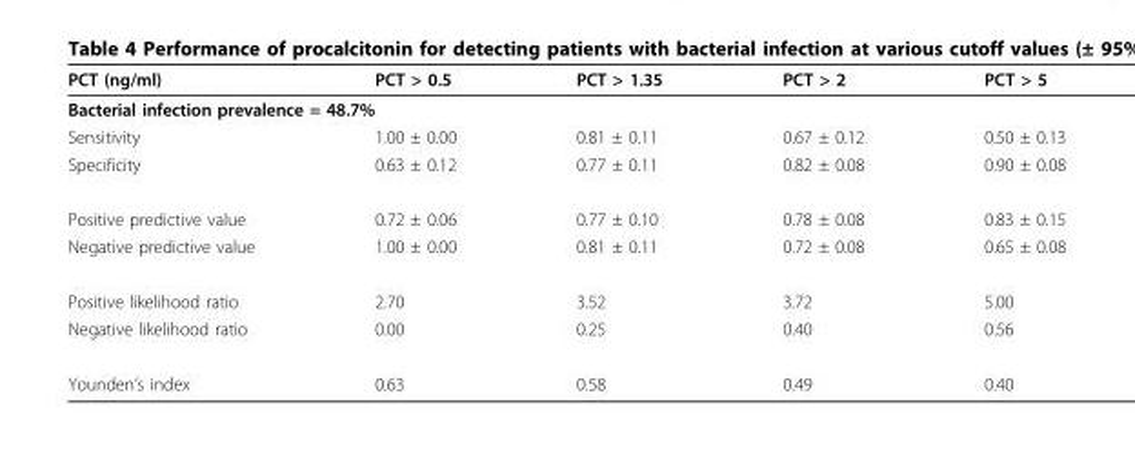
<table><thead><tr><td>PCT (ng/ml)</td><td>PCT &gt; 0.5</td><td>PCT &gt; 1.35</td><td>PCT &gt; 2</td><td>PCT &gt; 5</td></tr></thead><tbody><tr><td colspan="5">Bacterial infection prevalence = 48.7%</td></tr><tr><td>Sensitivity</td><td>1.00 ± 0.00</td><td>0.81 ± 0.11</td><td>0.67 ± 0.12</td><td>0.50 ± 0.13</td></tr><tr><td>Specificity</td><td>0.63 ± 0.12</td><td>0.77 ± 0.11</td><td>0.82 ± 0.08</td><td>0.90 ± 0.08</td></tr><tr><td>Positive predictive value</td><td>0.72 ± 0.06</td><td>0.77 ± 0.10</td><td>0.78 ± 0.08</td><td>0.83 ± 0.15</td></tr><tr><td>Negative predictive value</td><td>1.00 ± 0.00</td><td>0.81 ± 0.11</td><td>0.72 ± 0.08</td><td>0.65 ± 0.08</td></tr><tr><td>Positive likelihood ratio</td><td>2.70</td><td>3.52</td><td>3.72</td><td>5.00</td></tr><tr><td>Negative likelihood ratio</td><td>0.00</td><td>0.25</td><td>0.40</td><td>0.56</td></tr><tr><td>Younden’s index</td><td>0.63</td><td>0.58</td><td>0.49</td><td>0.40</td></tr></tbody></table>